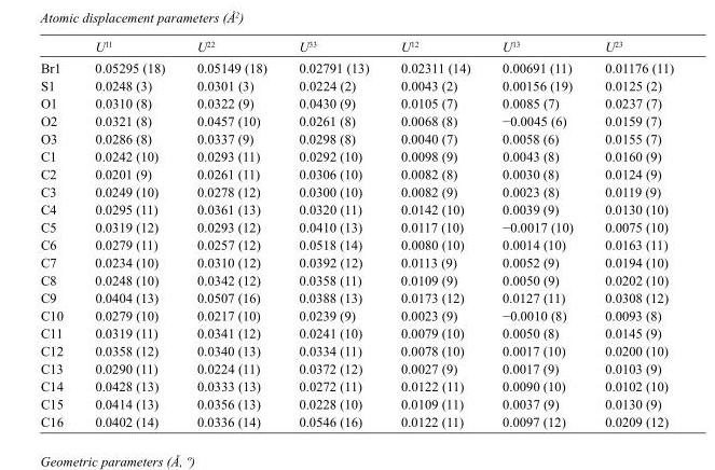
<table><thead><tr><td></td><td>U<sup>11</sup></td><td>U<sup>22</sup></td><td>U<sup>33</sup></td><td>U<sup>12</sup></td><td>U<sup>13</sup></td><td>U<sup>23</sup></td></tr></thead><tbody><tr><td>Br1</td><td>0.05295 (18)</td><td>0.05149 (18)</td><td>0.02791 (13)</td><td>0.02311 (14)</td><td>0.00691 (11)</td><td>0.01176 (11)</td></tr><tr><td>S1</td><td>0.0248 (3)</td><td>0.0301 (3)</td><td>0.0224 (2)</td><td>0.0043 (2)</td><td>0.00156 (19)</td><td>0.0125 (2)</td></tr><tr><td>O1</td><td>0.0310 (8)</td><td>0.0322 (9)</td><td>0.0430 (9)</td><td>0.0105 (7)</td><td>0.0085 (7)</td><td>0.0237 (7)</td></tr><tr><td>O2</td><td>0.0321 (8)</td><td>0.0457 (10)</td><td>0.0261 (8)</td><td>0.0068 (8)</td><td>−0.0045 (6)</td><td>0.0159 (7)</td></tr><tr><td>O3</td><td>0.0286 (8)</td><td>0.0337 (9)</td><td>0.0298 (8)</td><td>0.0040 (7)</td><td>0.0058 (6)</td><td>0.0155 (7)</td></tr><tr><td>C1</td><td>0.0242 (10)</td><td>0.0293 (11)</td><td>0.0292 (10)</td><td>0.0098 (9)</td><td>0.0043 (8)</td><td>0.0160 (9)</td></tr><tr><td>C2</td><td>0.0201 (9)</td><td>0.0261 (11)</td><td>0.0306 (10)</td><td>0.0082 (8)</td><td>0.0030 (8)</td><td>0.0124 (9)</td></tr><tr><td>C3</td><td>0.0249 (10)</td><td>0.0278 (12)</td><td>0.0300 (10)</td><td>0.0082 (9)</td><td>0.0023 (8)</td><td>0.0119 (9)</td></tr><tr><td>C4</td><td>0.0295 (11)</td><td>0.0361 (13)</td><td>0.0320 (11)</td><td>0.0142 (10)</td><td>0.0039 (9)</td><td>0.0130 (10)</td></tr><tr><td>C5</td><td>0.0319 (12)</td><td>0.0293 (12)</td><td>0.0410 (13)</td><td>0.0117 (10)</td><td>−0.0017 (10)</td><td>0.0075 (10)</td></tr><tr><td>C6</td><td>0.0279 (11)</td><td>0.0257 (12)</td><td>0.0518 (14)</td><td>0.0080 (10)</td><td>0.0014 (10)</td><td>0.0163 (11)</td></tr><tr><td>C7</td><td>0.0234 (10)</td><td>0.0310 (12)</td><td>0.0392 (12)</td><td>0.0113 (9)</td><td>0.0052 (9)</td><td>0.0194 (10)</td></tr><tr><td>C8</td><td>0.0248 (10)</td><td>0.0342 (12)</td><td>0.0358 (11)</td><td>0.0109 (9)</td><td>0.0050 (9)</td><td>0.0202 (10)</td></tr><tr><td>C9</td><td>0.0404 (13)</td><td>0.0507 (16)</td><td>0.0388 (13)</td><td>0.0173 (12)</td><td>0.0127 (11)</td><td>0.0308 (12)</td></tr><tr><td>C10</td><td>0.0279 (10)</td><td>0.0217 (10)</td><td>0.0239 (9)</td><td>0.0023 (9)</td><td>−0.0010 (8)</td><td>0.0093 (8)</td></tr><tr><td>C11</td><td>0.0319 (11)</td><td>0.0341 (12)</td><td>0.0241 (10)</td><td>0.0079 (10)</td><td>0.0050 (8)</td><td>0.0145 (9)</td></tr><tr><td>C12</td><td>0.0358 (12)</td><td>0.0340 (13)</td><td>0.0334 (11)</td><td>0.0078 (10)</td><td>0.0017 (10)</td><td>0.0200 (10)</td></tr><tr><td>C13</td><td>0.0290 (11)</td><td>0.0224 (11)</td><td>0.0372 (12)</td><td>0.0027 (9)</td><td>0.0017 (9)</td><td>0.0103 (9)</td></tr><tr><td>C14</td><td>0.0428 (13)</td><td>0.0333 (13)</td><td>0.0272 (11)</td><td>0.0122 (11)</td><td>0.0090 (10)</td><td>0.0102 (10)</td></tr><tr><td>C15</td><td>0.0414 (13)</td><td>0.0356 (13)</td><td>0.0228 (10)</td><td>0.0109 (11)</td><td>0.0037 (9)</td><td>0.0130 (9)</td></tr><tr><td>C16</td><td>0.0402 (14)</td><td>0.0336 (14)</td><td>0.0546 (16)</td><td>0.0122 (11)</td><td>0.0097 (12)</td><td>0.0209 (12)</td></tr></tbody></table>